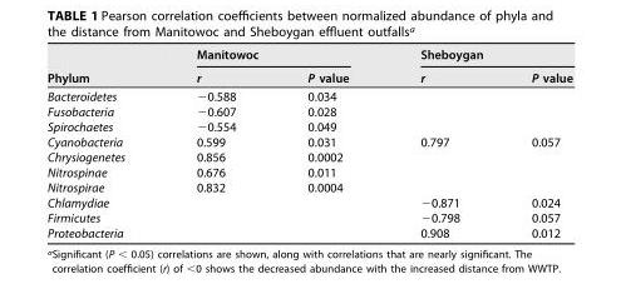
<table><thead><tr><td rowspan="2">Phylum</td><td colspan="2">Manitowoc</td><td colspan="2">Sheboygan</td></tr><tr><td>r</td><td>P value</td><td>r</td><td>P value</td></tr></thead><tbody><tr><td>Bacteroidetes</td><td>−0.588</td><td>0.034</td><td></td><td></td></tr><tr><td>Fusobacteria</td><td>−0.607</td><td>0.028</td><td></td><td></td></tr><tr><td>Spirochaetes</td><td>−0.554</td><td>0.049</td><td></td><td></td></tr><tr><td>Cyanobacteria</td><td>0.599</td><td>0.031</td><td>0.797</td><td>0.057</td></tr><tr><td>Chrysiogenetes</td><td>0.856</td><td>0.0002</td><td></td><td></td></tr><tr><td>Nitrospinae</td><td>0.676</td><td>0.011</td><td></td><td></td></tr><tr><td>Nitrospirae</td><td>0.832</td><td>0.0004</td><td></td><td></td></tr><tr><td>Chlamydiae</td><td></td><td></td><td>−0.871</td><td>0.024</td></tr><tr><td>Firmicutes</td><td></td><td></td><td>−0.798</td><td>0.057</td></tr><tr><td>Proteobacteria</td><td></td><td></td><td>0.908</td><td>0.012</td></tr></tbody></table>